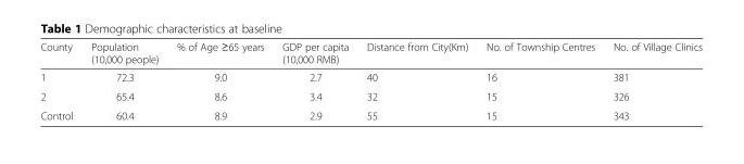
<table><thead><tr><td>County</td><td>Population (10,000 people)</td><td>% of Age ≥65 years</td><td>GDP per capita (10,000 RMB)</td><td>Distance from City(Km)</td><td>No. of Township Centres</td><td>No. of Village Clinics</td></tr></thead><tbody><tr><td>1</td><td>72.3</td><td>9.0</td><td>2.7</td><td>40</td><td>16</td><td>381</td></tr><tr><td>2</td><td>65.4</td><td>8.6</td><td>3.4</td><td>32</td><td>15</td><td>326</td></tr><tr><td>Control</td><td>60.4</td><td>8.9</td><td>2.9</td><td>55</td><td>15</td><td>343</td></tr></tbody></table>